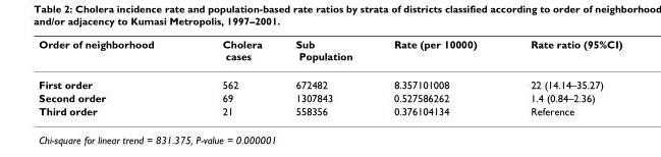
<table><thead><tr><td>Order of neighborhood</td><td>Cholera cases</td><td>Sub Population</td><td>Rate (per 10000)</td><td>Rate ratio (95%CI)</td></tr></thead><tbody><tr><td>First order</td><td>562</td><td>672482</td><td>8.357101008</td><td>22 (14.14–35.27)</td></tr><tr><td>Second order</td><td>69</td><td>1307843</td><td>0.527586262</td><td>1.4 (0.84–2.36)</td></tr><tr><td>Third order</td><td>21</td><td>558356</td><td>0.376104134</td><td>Reference</td></tr></tbody></table>